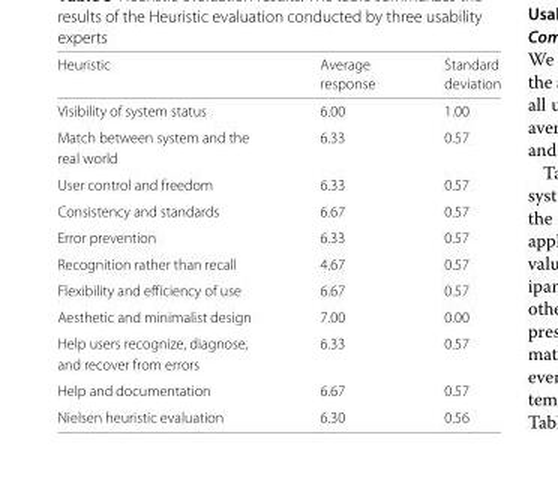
<table><thead><tr><td rowspan="2">Heuristic</td><td rowspan="2">Average response</td><td rowspan="2">Standard deviation</td></tr><tr></tr></thead><tbody><tr><td>Visibility of system status</td><td>6.00</td><td>1.00</td></tr><tr><td>Match between system and the</td><td>6.33</td><td>0.57</td></tr><tr><td colspan="3">real world</td></tr><tr><td>User control and freedom</td><td>6.33</td><td>0.57</td></tr><tr><td>Consistency and standards</td><td>6.67</td><td>0.57</td></tr><tr><td>Error prevention</td><td>6.33</td><td>0.57</td></tr><tr><td>Recognition rather than recall</td><td>4.67</td><td>0.57</td></tr><tr><td>Flexibility and efficiency of use</td><td>6.67</td><td>0.57</td></tr><tr><td>Aesthetic and minimalist design</td><td>7.00</td><td>0.00</td></tr><tr><td>Help users recognize, diagnose,</td><td>6.33</td><td>0.57</td></tr><tr><td colspan="3">and recover from errors</td></tr><tr><td>Help and documentation</td><td>6.67</td><td>0.57</td></tr><tr><td>Nielsen heuristic evaluation</td><td>6.30</td><td>0.56</td></tr></tbody></table>